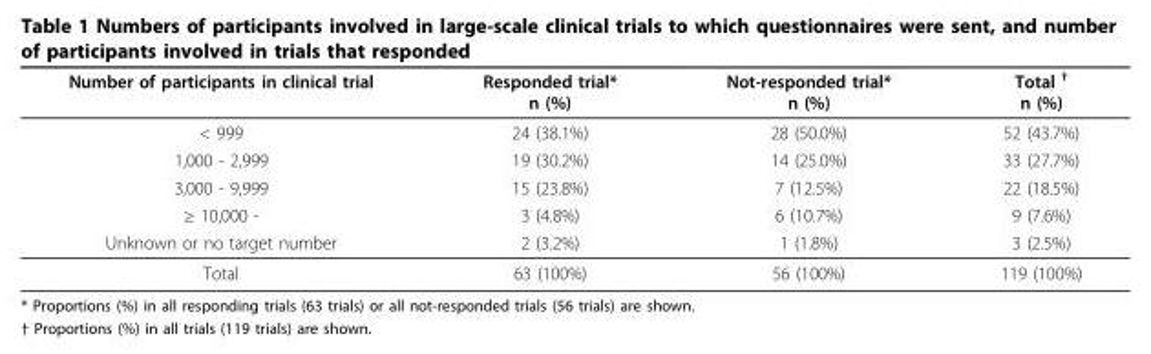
<table><thead><tr><td>Number of participants in clinical trial</td><td>Responded trial* n (%)</td><td>Not-responded trial* n (%)</td><td>Total <sup>†</sup> n (%)</td></tr></thead><tbody><tr><td>&lt; 999</td><td>24 (38.1%)</td><td>28 (50.0%)</td><td>52 (43.7%)</td></tr><tr><td>1,000 - 2,999</td><td>19 (30.2%)</td><td>14 (25.0%)</td><td>33 (27.7%)</td></tr><tr><td>3,000 - 9,999</td><td>15 (23.8%)</td><td>7 (12.5%)</td><td>22 (18.5%)</td></tr><tr><td>≥ 10,000 -</td><td>3 (4.8%)</td><td>6 (10.7%)</td><td>9 (7.6%)</td></tr><tr><td>Unknown or no target number</td><td>2 (3.2%)</td><td>1 (1.8%)</td><td>3 (2.5%)</td></tr><tr><td>Total</td><td>63 (100%)</td><td>56 (100%)</td><td>119 (100%)</td></tr></tbody></table>